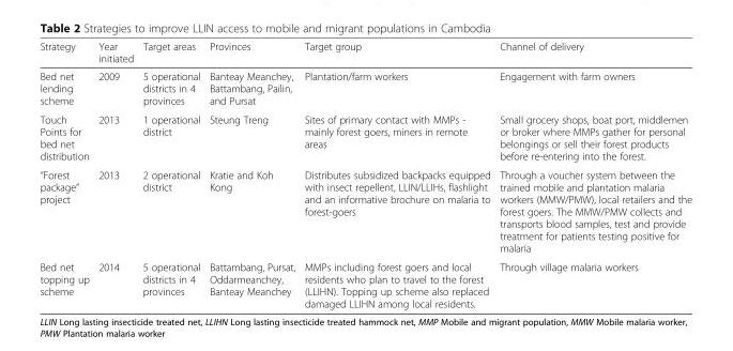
<table><thead><tr><td>Strategy</td><td>Year initiated</td><td>Target areas</td><td>Provinces</td><td>Target group</td><td>Channel of delivery</td></tr></thead><tbody><tr><td>Bed net lending scheme</td><td>2009</td><td>5 operational districts in 4 provinces</td><td>Banteay Meanchey, Battambang, Pailin, and Pursat</td><td>Plantation/farm workers</td><td>Engagement with farm owners</td></tr><tr><td>Touch Points for bed net distribution</td><td>2013</td><td>1 operational district</td><td>Steung Treng</td><td>Sites of primary contact with MMPs - mainly forest goers, miners in remote areas</td><td>Small grocery shops, boat port, middlemen or broker where MMPs gather for personal belongings or sell their forest products before re-entering into the forest.</td></tr><tr><td>“Forest package” project</td><td>2013</td><td>2 operational district</td><td>Kratie and Koh Kong</td><td>Distributes subsidized backpacks equipped with insect repellent, LLIN/LLIHs, flashlight and an informative brochure on malaria to forest-goers</td><td>Through a voucher system between the trained mobile and plantation malaria workers (MMW/PMW), local retailers and the forest goers. The MMW/PMW collects and transports blood samples, test and provide treatment for patients testing positive for malaria</td></tr><tr><td>Bed net topping up scheme</td><td>2014</td><td>5 operational districts in 4 provinces</td><td>Battambang, Pursat, Oddarmeanchey, Banteay Meanchey</td><td>MMPs including forest goers and local residents who plan to travel to the forest (LLIHN). Topping up scheme also replaced damaged LLIHN among local residents.</td><td>Through village malaria workers</td></tr></tbody></table>